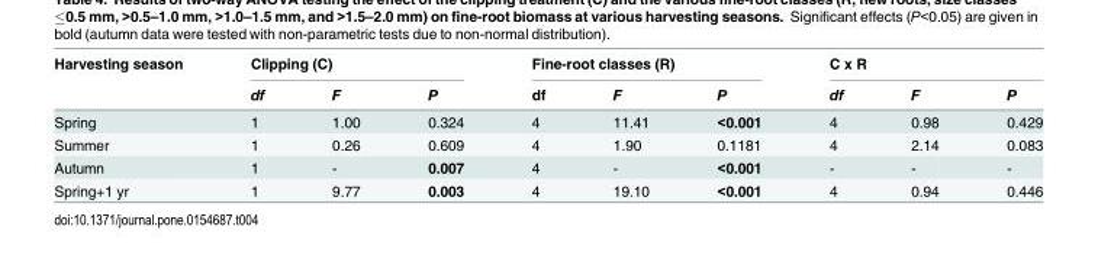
<table><thead><tr><td rowspan="2">Harvesting season</td><td colspan="3">Clipping (C)</td><td colspan="3">Fine-root classes (R)</td><td colspan="3">C x R</td></tr><tr><td>df</td><td>F</td><td>P</td><td>df</td><td>F</td><td>P</td><td>df</td><td>F</td><td>P</td></tr></thead><tbody><tr><td>Spring</td><td>1</td><td>1.00</td><td>0.324</td><td>4</td><td>11.41</td><td>&lt;0.001</td><td>4</td><td>0.98</td><td>0.429</td></tr><tr><td>Summer</td><td>1</td><td>0.26</td><td>0.609</td><td>4</td><td>1.90</td><td>0.1181</td><td>4</td><td>2.14</td><td>0.083</td></tr><tr><td>Autumn</td><td>1</td><td>-</td><td>0.007</td><td>4</td><td>-</td><td>&lt;0.001</td><td>-</td><td>-</td><td>-</td></tr><tr><td>Spring+1 yr</td><td>1</td><td>9.77</td><td>0.003</td><td>4</td><td>19.10</td><td>&lt;0.001</td><td>4</td><td>0.94</td><td>0.446</td></tr></tbody></table>